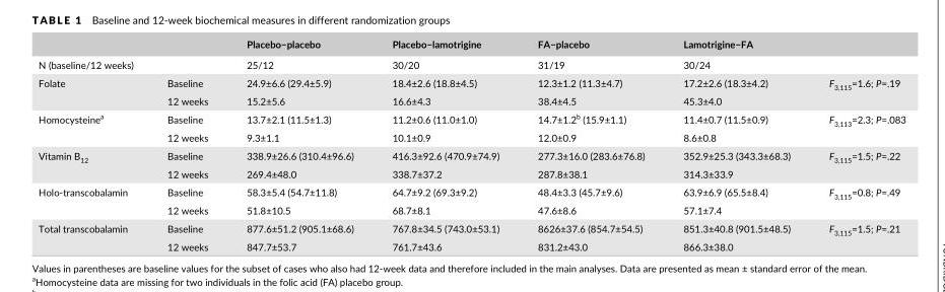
<table><thead><tr><td></td><td></td><td>Placebo−placebo</td><td>Placebo−lamotrigine</td><td>FA−placebo</td><td>Lamotrigine−FA</td><td></td></tr></thead><tbody><tr><td>N (baseline/12 weeks)</td><td></td><td>25/12</td><td>30/20</td><td>31/19</td><td>30/24</td><td></td></tr><tr><td rowspan="2">Folate</td><td>Baseline</td><td>24.9±6.6 (29.4±5.9)</td><td>18.4±2.6 (18.8±4.5)</td><td>12.3±1.2 (11.3±4.7)</td><td>17.2±2.6 (18.3±4.2)</td><td>F<sub>3,115</sub>=1.6; P=.19</td></tr><tr><td>12 weeks</td><td>15.2±5.6</td><td>16.6±4.3</td><td>38.4±4.5</td><td>45.3±4.0</td><td></td></tr><tr><td rowspan="2">Homocysteine<sup>a</sup></td><td>Baseline</td><td>13.7±2.1 (11.5±1.3)</td><td>11.2±0.6 (11.0±1.0)</td><td>14.7±1.2<sup>b</sup> (15.9±1.1)</td><td>11.4±0.7 (11.5±0.9)</td><td>F<sub>3,113</sub>=2.3; P=.083</td></tr><tr><td>12 weeks</td><td>9.3±1.1</td><td>10.1±0.9</td><td>12.0±0.9</td><td>8.6±0.8</td><td></td></tr><tr><td rowspan="2">Vitamin B<sub>12</sub></td><td>Baseline</td><td>338.9±26.6 (310.4±96.6)</td><td>416.3±92.6 (470.9±74.9)</td><td>277.3±16.0 (283.6±76.8)</td><td>352.9±25.3 (343.3±68.3)</td><td>F<sub>3,115</sub>=1.5; P=.22</td></tr><tr><td>12 weeks</td><td>269.4±48.0</td><td>338.7±37.2</td><td>287.8±38.1</td><td>314.3±33.9</td><td></td></tr><tr><td rowspan="2">Holo- transcobalamin</td><td>Baseline</td><td>58.3±5.4 (54.7±11.8)</td><td>64.7±9.2 (69.3±9.2)</td><td>48.4±3.3 (45.7±9.6)</td><td>63.9±6.9 (65.5±8.4)</td><td>F<sub>3,115</sub>=0.8; P=.49</td></tr><tr><td>12 weeks</td><td>51.8±10.5</td><td>68.7±8.1</td><td>47.6±8.6</td><td>57.1±7.4</td><td></td></tr><tr><td rowspan="2">Total transcobalamin</td><td>Baseline</td><td>877.6±51.2 (905.1±68.6)</td><td>767.8±34.5 (743.0±53.1)</td><td>8626±37.6 (854.7±54.5)</td><td>851.3±40.8 (901.5±48.5)</td><td>F<sub>3,115</sub>=1.5; P=.21</td></tr><tr><td>12 weeks</td><td>847.7±53.7</td><td>761.7±43.6</td><td>831.2±43.0</td><td>866.3±38.0</td><td></td></tr></tbody></table>